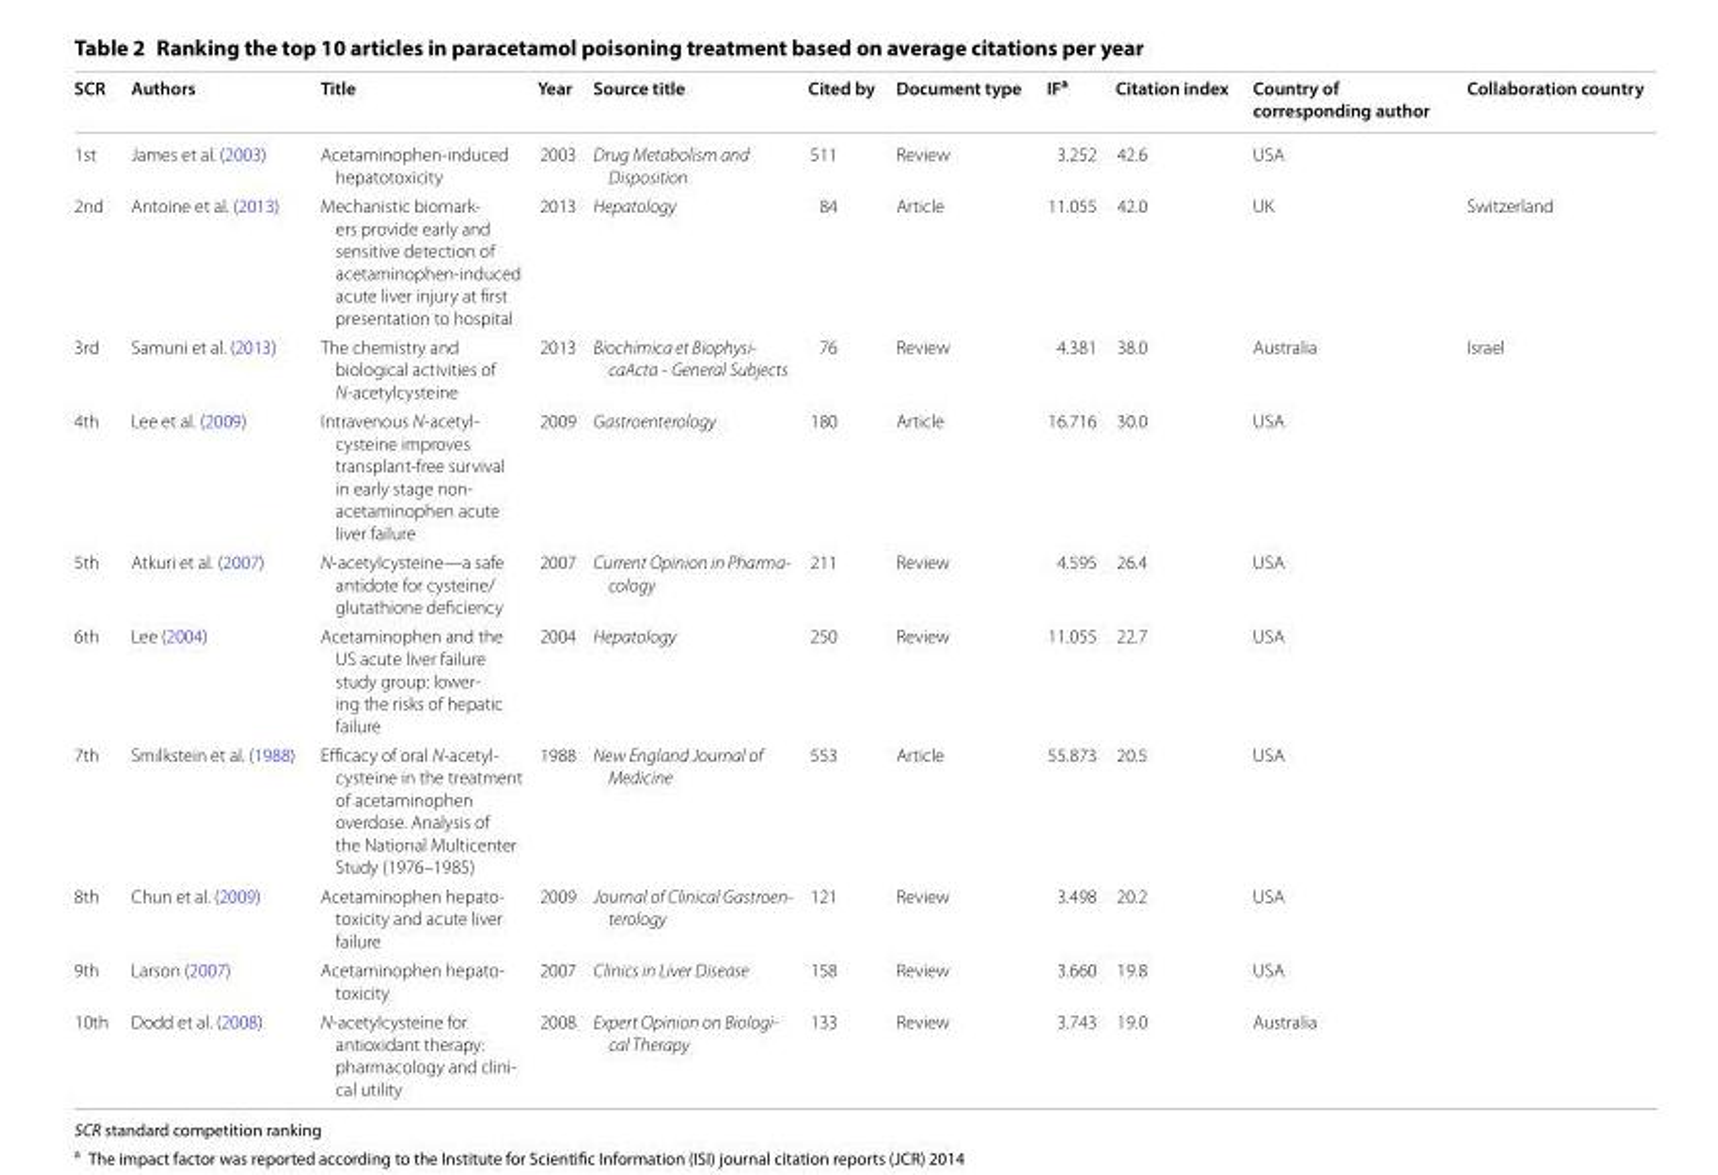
<table><thead><tr><td>SCR</td><td>Authors</td><td>Title</td><td>Year</td><td>Source title</td><td>Cited by</td><td>Document type</td><td>IF<sup>a</sup></td><td>Citation index</td><td>Country of corresponding author</td><td>Collaboration country</td></tr></thead><tbody><tr><td>1st</td><td>James et al. (2003)</td><td>Acetaminophen‑induced hepatotoxicity</td><td>2003</td><td>Drug Metabolism and Disposition</td><td>511</td><td>Review</td><td>3.252</td><td>42.6</td><td>USA</td><td></td></tr><tr><td>2nd</td><td>Antoine et al. (2013)</td><td>Mechanistic biomark‑ ers provide early and sensitive detection of acetaminophen‑induced acute liver injury at first presentation to hospital</td><td>2013</td><td>Hepatology</td><td>84</td><td>Article</td><td>11.055</td><td>42.0</td><td>UK</td><td>Switzerland</td></tr><tr><td>3rd</td><td>Samuni et al. (2013)</td><td>The chemistry and biological activities of N‑acetylcysteine</td><td>2013</td><td>Biochimica et Biophysi- caActa ‑ General Subjects</td><td>76</td><td>Review</td><td>4.381</td><td>38.0</td><td>Australia</td><td>Israel</td></tr><tr><td>4th</td><td>Lee et al. (2009)</td><td>Intravenous N‑acetyl‑ cysteine improves transplant‑free survival in early stage non‑ acetaminophen acute liver failure</td><td>2009</td><td>Gastroenterology</td><td>180</td><td>Article</td><td>16.716</td><td>30.0</td><td>USA</td><td></td></tr><tr><td>5th</td><td>Atkuri et al. (2007)</td><td>N‑acetylcysteine—a safe antidote for cysteine/ glutathione deficiency</td><td>2007</td><td>Current Opinion in Pharma- cology</td><td>211</td><td>Review</td><td>4.595</td><td>26.4</td><td>USA</td><td></td></tr><tr><td>6th</td><td>Lee (2004)</td><td>Acetaminophen and the US acute liver failure study group: lower‑ ing the risks of hepatic failure</td><td>2004</td><td>Hepatology</td><td>250</td><td>Review</td><td>11.055</td><td>22.7</td><td>USA</td><td></td></tr><tr><td>7th</td><td>Smilkstein et al. (1988)</td><td>Efficacy of oral N‑acetyl‑ cysteine in the treatment of acetaminophen overdose. Analysis of the National Multicenter Study (1976–1985)</td><td>1988</td><td>New England Journal of Medicine</td><td>553</td><td>Article</td><td>55.873</td><td>20.5</td><td>USA</td><td></td></tr><tr><td>8th</td><td>Chun et al. (2009)</td><td>Acetaminophen hepato‑ toxicity and acute liver failure</td><td>2009</td><td>Journal of Clinical Gastroen- terology</td><td>121</td><td>Review</td><td>3.498</td><td>20.2</td><td>USA</td><td></td></tr><tr><td>9th</td><td>Larson (2007)</td><td>Acetaminophen hepato‑ toxicity</td><td>2007</td><td>Clinics in Liver Disease</td><td>158</td><td>Review</td><td>3.660</td><td>19.8</td><td>USA</td><td></td></tr><tr><td>10th</td><td>Dodd et al. (2008)</td><td>N‑acetylcysteine for antioxidant therapy: pharmacology and clini‑ cal utility</td><td>2008</td><td>Expert Opinion on Biologi- cal Therapy</td><td>133</td><td>Review</td><td>3.743</td><td>19.0</td><td>Australia</td><td></td></tr></tbody></table>